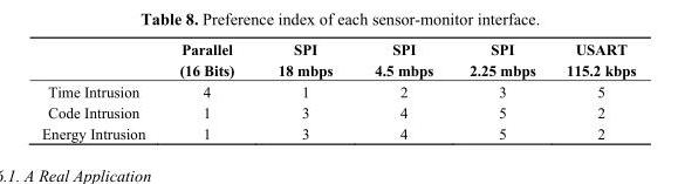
<table><thead><tr><td></td><td>Parallel (16 Bits)</td><td>SPI 18 mbps</td><td>SPI 4.5 mbps</td><td>SPI 2.25 mbps</td><td>USART 115.2 kbps</td></tr></thead><tbody><tr><td>Time Intrusion</td><td>4</td><td>1</td><td>2</td><td>3</td><td>5</td></tr><tr><td>Code Intrusion</td><td>1</td><td>3</td><td>4</td><td>5</td><td>2</td></tr><tr><td>Energy Intrusion</td><td>1</td><td>3</td><td>4</td><td>5</td><td>2</td></tr></tbody></table>